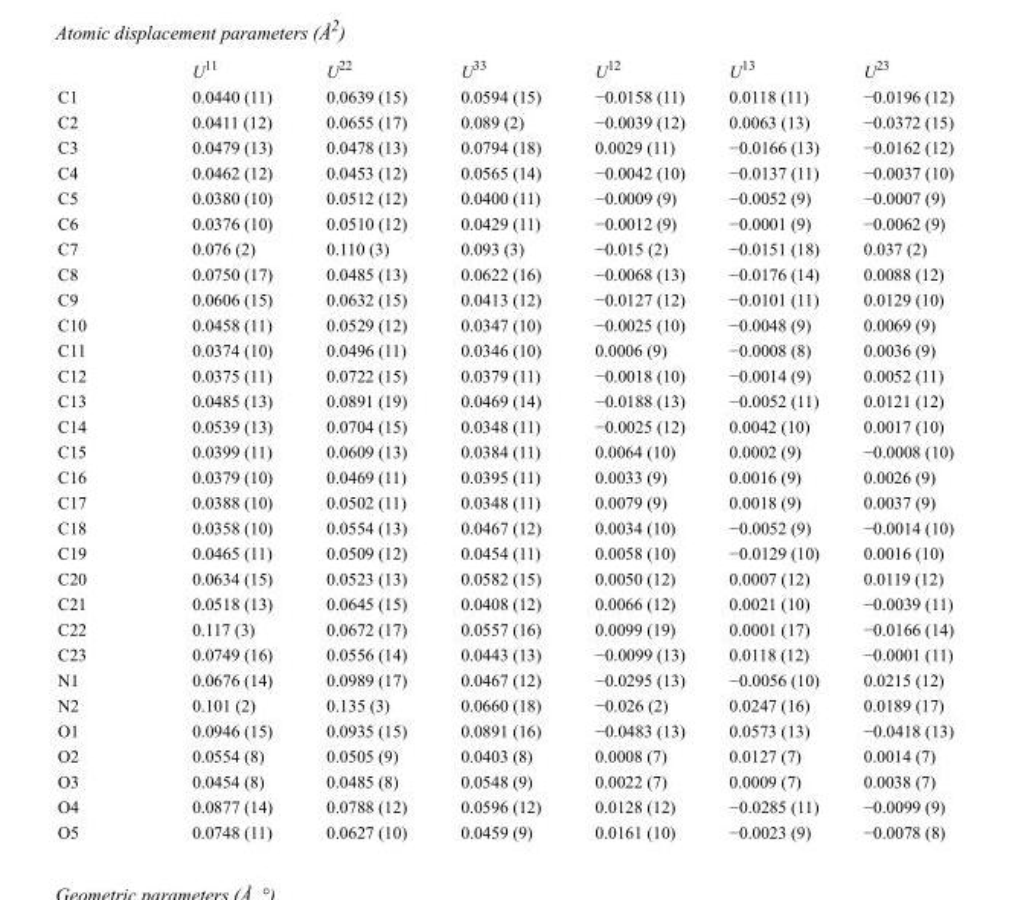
<table><thead><tr><td></td><td>U<sup>11</sup></td><td>U<sup>22</sup></td><td>U<sup>33</sup></td><td>U<sup>12</sup></td><td>U<sup>13</sup></td><td>U<sup>23</sup></td></tr></thead><tbody><tr><td>C1</td><td>0.0440 (11)</td><td>0.0639 (15)</td><td>0.0594 (15)</td><td>−0.0158 (11)</td><td>0.0118 (11)</td><td>−0.0196 (12)</td></tr><tr><td>C2</td><td>0.0411 (12)</td><td>0.0655 (17)</td><td>0.089 (2)</td><td>−0.0039 (12)</td><td>0.0063 (13)</td><td>−0.0372 (15)</td></tr><tr><td>C3</td><td>0.0479 (13)</td><td>0.0478 (13)</td><td>0.0794 (18)</td><td>0.0029 (11)</td><td>−0.0166 (13)</td><td>−0.0162 (12)</td></tr><tr><td>C4</td><td>0.0462 (12)</td><td>0.0453 (12)</td><td>0.0565 (14)</td><td>−0.0042 (10)</td><td>−0.0137 (11)</td><td>−0.0037 (10)</td></tr><tr><td>C5</td><td>0.0380 (10)</td><td>0.0512 (12)</td><td>0.0400 (11)</td><td>−0.0009 (9)</td><td>−0.0052 (9)</td><td>−0.0007 (9)</td></tr><tr><td>C6</td><td>0.0376 (10)</td><td>0.0510 (12)</td><td>0.0429 (11)</td><td>−0.0012 (9)</td><td>−0.0001 (9)</td><td>−0.0062 (9)</td></tr><tr><td>C7</td><td>0.076 (2)</td><td>0.110 (3)</td><td>0.093 (3)</td><td>−0.015 (2)</td><td>−0.0151 (18)</td><td>0.037 (2)</td></tr><tr><td>C8</td><td>0.0750 (17)</td><td>0.0485 (13)</td><td>0.0622 (16)</td><td>−0.0068 (13)</td><td>−0.0176 (14)</td><td>0.0088 (12)</td></tr><tr><td>C9</td><td>0.0606 (15)</td><td>0.0632 (15)</td><td>0.0413 (12)</td><td>−0.0127 (12)</td><td>−0.0101 (11)</td><td>0.0129 (10)</td></tr><tr><td>C10</td><td>0.0458 (11)</td><td>0.0529 (12)</td><td>0.0347 (10)</td><td>−0.0025 (10)</td><td>−0.0048 (9)</td><td>0.0069 (9)</td></tr><tr><td>C11</td><td>0.0374 (10)</td><td>0.0496 (11)</td><td>0.0346 (10)</td><td>0.0006 (9)</td><td>−0.0008 (8)</td><td>0.0036 (9)</td></tr><tr><td>C12</td><td>0.0375 (11)</td><td>0.0722 (15)</td><td>0.0379 (11)</td><td>−0.0018 (10)</td><td>−0.0014 (9)</td><td>0.0052 (11)</td></tr><tr><td>C13</td><td>0.0485 (13)</td><td>0.0891 (19)</td><td>0.0469 (14)</td><td>−0.0188 (13)</td><td>−0.0052 (11)</td><td>0.0121 (12)</td></tr><tr><td>C14</td><td>0.0539 (13)</td><td>0.0704 (15)</td><td>0.0348 (11)</td><td>−0.0025 (12)</td><td>0.0042 (10)</td><td>0.0017 (10)</td></tr><tr><td>C15</td><td>0.0399 (11)</td><td>0.0609 (13)</td><td>0.0384 (11)</td><td>0.0064 (10)</td><td>0.0002 (9)</td><td>−0.0008 (10)</td></tr><tr><td>C16</td><td>0.0379 (10)</td><td>0.0469 (11)</td><td>0.0395 (11)</td><td>0.0033 (9)</td><td>0.0016 (9)</td><td>0.0026 (9)</td></tr><tr><td>C17</td><td>0.0388 (10)</td><td>0.0502 (11)</td><td>0.0348 (11)</td><td>0.0079 (9)</td><td>0.0018 (9)</td><td>0.0037 (9)</td></tr><tr><td>C18</td><td>0.0358 (10)</td><td>0.0554 (13)</td><td>0.0467 (12)</td><td>0.0034 (10)</td><td>−0.0052 (9)</td><td>−0.0014 (10)</td></tr><tr><td>C19</td><td>0.0465 (11)</td><td>0.0509 (12)</td><td>0.0454 (11)</td><td>0.0058 (10)</td><td>−0.0129 (10)</td><td>0.0016 (10)</td></tr><tr><td>C20</td><td>0.0634 (15)</td><td>0.0523 (13)</td><td>0.0582 (15)</td><td>0.0050 (12)</td><td>0.0007 (12)</td><td>0.0119 (12)</td></tr><tr><td>C21</td><td>0.0518 (13)</td><td>0.0645 (15)</td><td>0.0408 (12)</td><td>0.0066 (12)</td><td>0.0021 (10)</td><td>−0.0039 (11)</td></tr><tr><td>C22</td><td>0.117 (3)</td><td>0.0672 (17)</td><td>0.0557 (16)</td><td>0.0099 (19)</td><td>0.0001 (17)</td><td>−0.0166 (14)</td></tr><tr><td>C23</td><td>0.0749 (16)</td><td>0.0556 (14)</td><td>0.0443 (13)</td><td>−0.0099 (13)</td><td>0.0118 (12)</td><td>−0.0001 (11)</td></tr><tr><td>N1</td><td>0.0676 (14)</td><td>0.0989 (17)</td><td>0.0467 (12)</td><td>−0.0295 (13)</td><td>−0.0056 (10)</td><td>0.0215 (12)</td></tr><tr><td>N2</td><td>0.101 (2)</td><td>0.135 (3)</td><td>0.0660 (18)</td><td>−0.026 (2)</td><td>0.0247 (16)</td><td>0.0189 (17)</td></tr><tr><td>O1</td><td>0.0946 (15)</td><td>0.0935 (15)</td><td>0.0891 (16)</td><td>−0.0483 (13)</td><td>0.0573 (13)</td><td>−0.0418 (13)</td></tr><tr><td>O2</td><td>0.0554 (8)</td><td>0.0505 (9)</td><td>0.0403 (8)</td><td>0.0008 (7)</td><td>0.0127 (7)</td><td>0.0014 (7)</td></tr><tr><td>O3</td><td>0.0454 (8)</td><td>0.0485 (8)</td><td>0.0548 (9)</td><td>0.0022 (7)</td><td>0.0009 (7)</td><td>0.0038 (7)</td></tr><tr><td>O4</td><td>0.0877 (14)</td><td>0.0788 (12)</td><td>0.0596 (12)</td><td>0.0128 (12)</td><td>−0.0285 (11)</td><td>−0.0099 (9)</td></tr><tr><td>O5</td><td>0.0748 (11)</td><td>0.0627 (10)</td><td>0.0459 (9)</td><td>0.0161 (10)</td><td>−0.0023 (9)</td><td>−0.0078 (8)</td></tr></tbody></table>